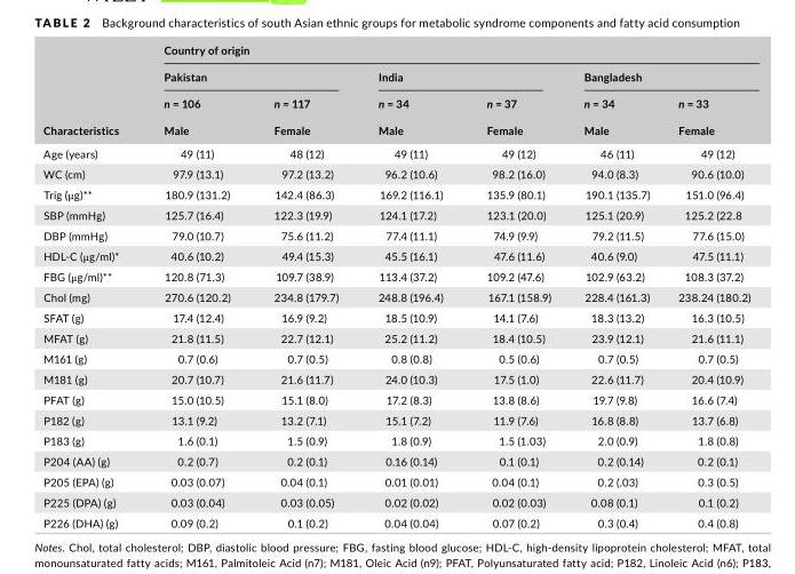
<table><thead><tr><td rowspan="4">Characteristics</td><td colspan="6">Country of origin</td></tr><tr><td colspan="2">Pakistan</td><td colspan="2">India</td><td colspan="2">Bangladesh</td></tr><tr><td rowspan="2">n = 106 Male</td><td rowspan="2">n = 117 Female</td><td rowspan="2">n = 34 Male</td><td rowspan="2">n = 37 Female</td><td rowspan="2">n = 34 Male</td><td rowspan="2">n = 33 Female</td></tr><tr></tr></thead><tbody><tr><td>Age (years)</td><td>49 (11)</td><td>48 (12)</td><td>49 (11)</td><td>49 (12)</td><td>46 (11)</td><td>49 (12)</td></tr><tr><td>WC (cm)</td><td>97.9 (13.1)</td><td>97.2 (13.2)</td><td>96.2 (10.6)</td><td>98.2 (16.0)</td><td>94.0 (8.3)</td><td>90.6 (10.0)</td></tr><tr><td>Trig (μg)**</td><td>180.9 (131.2)</td><td>142.4 (86.3)</td><td>169.2 (116.1)</td><td>135.9 (80.1)</td><td>190.1 (135.7)</td><td>151.0 (96.4)</td></tr><tr><td>SBP (mmHg)</td><td>125.7 (16.4)</td><td>122.3 (19.9)</td><td>124.1 (17.2)</td><td>123.1 (20.0)</td><td>125.1 (20.9)</td><td>125.2 (22.8</td></tr><tr><td>DBP (mmHg)</td><td>79.0 (10.7)</td><td>75.6 (11.2)</td><td>77.4 (11.1)</td><td>74.9 (9.9)</td><td>79.2 (11.5)</td><td>77.6 (15.0)</td></tr><tr><td>HDL- C (μg/ml)*</td><td>40.6 (10.2)</td><td>49.4 (15.3)</td><td>45.5 (16.1)</td><td>47.6 (11.6)</td><td>40.6 (9.0)</td><td>47.5 (11.1)</td></tr><tr><td>FBG (μg/ml)**</td><td>120.8 (71.3)</td><td>109.7 (38.9)</td><td>113.4 (37.2)</td><td>109.2 (47.6)</td><td>102.9 (63.2)</td><td>108.3 (37.2)</td></tr><tr><td>Chol (mg)</td><td>270.6 (120.2)</td><td>234.8 (179.7)</td><td>248.8 (196.4)</td><td>167.1 (158.9)</td><td>228.4 (161.3)</td><td>238.24 (180.2)</td></tr><tr><td>SFAT (g)</td><td>17.4 (12.4)</td><td>16.9 (9.2)</td><td>18.5 (10.9)</td><td>14.1 (7.6)</td><td>18.3 (13.2)</td><td>16.3 (10.5)</td></tr><tr><td>MFAT (g)</td><td>21.8 (11.5)</td><td>22.7 (12.1)</td><td>25.2 (11.2)</td><td>18.4 (10.5)</td><td>23.9 (12.1)</td><td>21.6 (11.1)</td></tr><tr><td>M161 (g)</td><td>0.7 (0.6)</td><td>0.7 (0.5)</td><td>0.8 (0.8)</td><td>0.5 (0.6)</td><td>0.7 (0.5)</td><td>0.7 (0.5)</td></tr><tr><td>M181 (g)</td><td>20.7 (10.7)</td><td>21.6 (11.7)</td><td>24.0 (10.3)</td><td>17.5 (1.0)</td><td>22.6 (11.7)</td><td>20.4 (10.9)</td></tr><tr><td>PFAT (g)</td><td>15.0 (10.5)</td><td>15.1 (8.0)</td><td>17.2 (8.3)</td><td>13.8 (8.6)</td><td>19.7 (9.8)</td><td>16.6 (7.4)</td></tr><tr><td>P182 (g)</td><td>13.1 (9.2)</td><td>13.2 (7.1)</td><td>15.1 (7.2)</td><td>11.9 (7.6)</td><td>16.8 (8.8)</td><td>13.7 (6.8)</td></tr><tr><td>P183 (g)</td><td>1.6 (0.1)</td><td>1.5 (0.9)</td><td>1.8 (0.9)</td><td>1.5 (1.03)</td><td>2.0 (0.9)</td><td>1.8 (0.8)</td></tr><tr><td>P204 (AA) (g)</td><td>0.2 (0.7)</td><td>0.2 (0.1)</td><td>0.16 (0.14)</td><td>0.1 (0.1)</td><td>0.2 (0.14)</td><td>0.2 (0.1)</td></tr><tr><td>P205 (EPA) (g)</td><td>0.03 (0.07)</td><td>0.04 (0.1)</td><td>0.01 (0.01)</td><td>0.04 (0.1)</td><td>0.2 (.03)</td><td>0.3 (0.5)</td></tr><tr><td>P225 (DPA) (g)</td><td>0.03 (0.04)</td><td>0.03 (0.05)</td><td>0.02 (0.02)</td><td>0.02 (0.03)</td><td>0.08 (0.1)</td><td>0.1 (0.2)</td></tr><tr><td>P226 (DHA) (g)</td><td>0.09 (0.2)</td><td>0.1 (0.2)</td><td>0.04 (0.04)</td><td>0.07 (0.2)</td><td>0.3 (0.4)</td><td>0.4 (0.8)</td></tr></tbody></table>